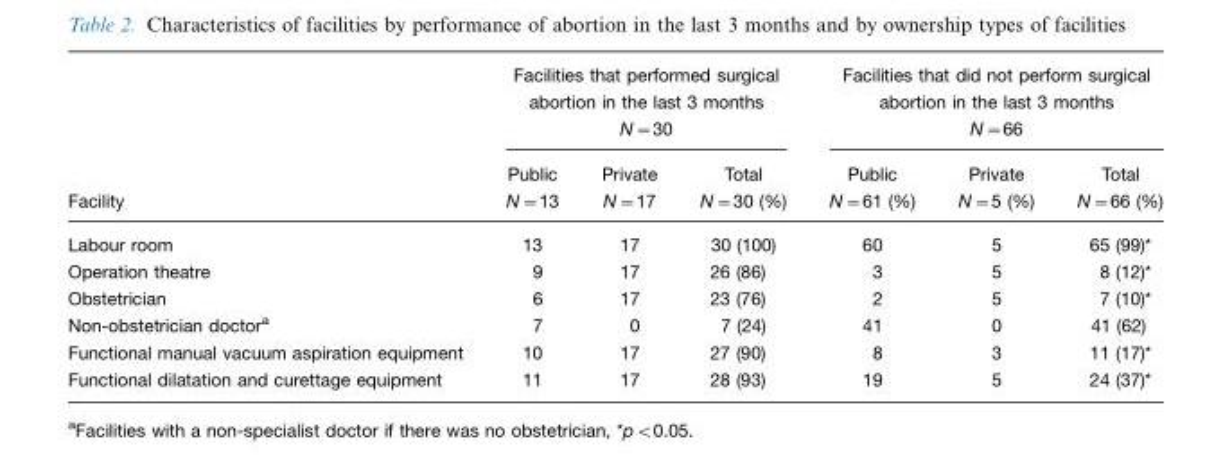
<table><thead><tr><td rowspan="2">Facility</td><td colspan="3">Facilities that performed surgical abortion in the last 3 months N=30</td><td colspan="3">Facilities that did not perform surgical abortion in the last 3 months N=66</td></tr><tr><td>Public N=13</td><td>Private N=17</td><td>Total N=30 (%)</td><td>Public N=61 (%)</td><td>Private N=5 (%)</td><td>Total N=66 (%)</td></tr></thead><tbody><tr><td>Labour room</td><td>13</td><td>17</td><td>30 (100)</td><td>60</td><td>5</td><td>65 (99)*</td></tr><tr><td>Operation theatre</td><td>9</td><td>17</td><td>26 (86)</td><td>3</td><td>5</td><td>8 (12)*</td></tr><tr><td>Obstetrician</td><td>6</td><td>17</td><td>23 (76)</td><td>2</td><td>5</td><td>7 (10)*</td></tr><tr><td>Non-obstetrician doctor<sup>a</sup></td><td>7</td><td>0</td><td>7 (24)</td><td>41</td><td>0</td><td>41 (62)</td></tr><tr><td>Functional manual vacuum aspiration equipment</td><td>10</td><td>17</td><td>27 (90)</td><td>8</td><td>3</td><td>11 (17)*</td></tr><tr><td>Functional dilatation and curettage equipment</td><td>11</td><td>17</td><td>28 (93)</td><td>19</td><td>5</td><td>24 (37)*</td></tr></tbody></table>